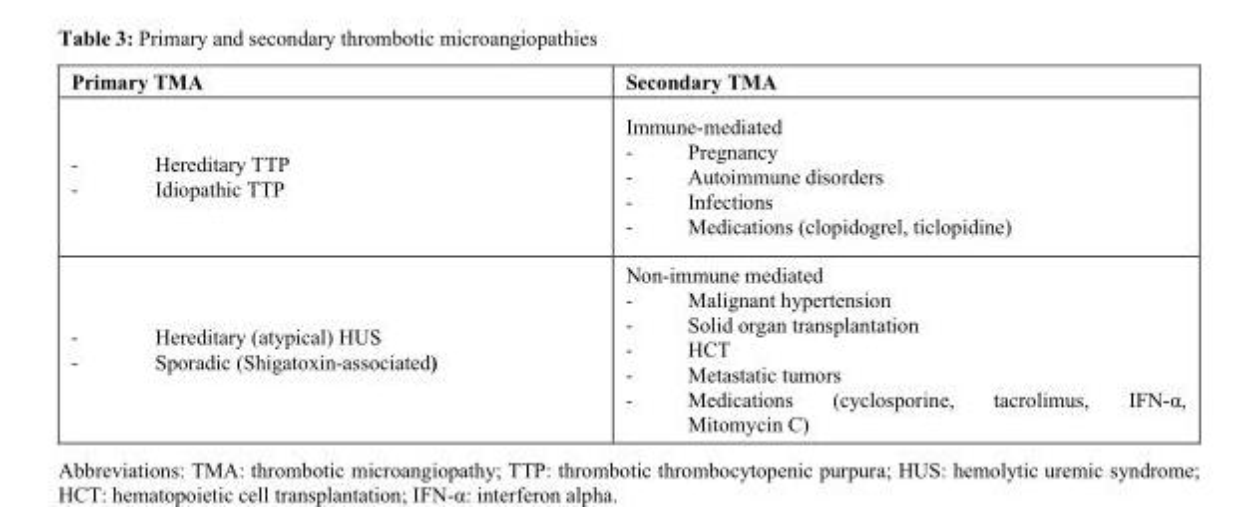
<table><thead><tr><td>Primary TMA</td><td>Secondary TMA</td></tr></thead><tbody><tr><td>- Hereditary TTP - Idiopathic TTP</td><td>Immune-mediated - Pregnancy - Autoimmune disorders - Infections - Medications (clopidogrel, ticlopidine)</td></tr><tr><td>- Hereditary (atypical) HUS - Sporadic (Shigatoxin-associated)</td><td>Non-immune mediated - Malignant hypertension - Solid organ transplantation - HCT - Metastatic tumors - Medications (cyclosporine, tacrolimus, IFN-α, Mitomycin C)</td></tr></tbody></table>